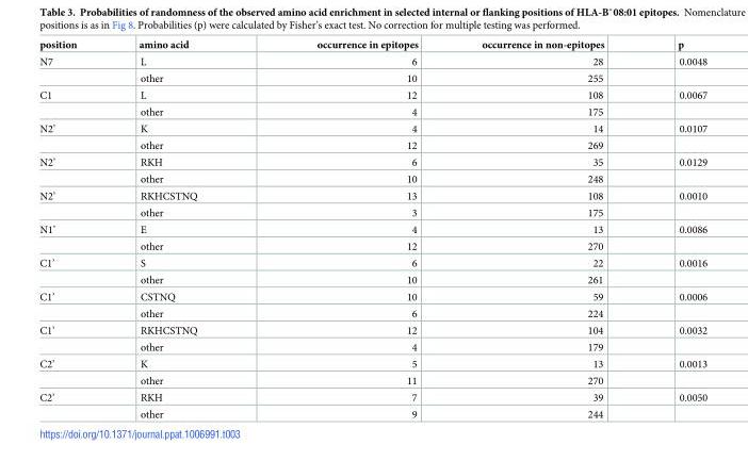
<table><thead><tr><td>position</td><td>amino acid</td><td>occurrence in epitopes</td><td>occurrence in non-epitopes</td><td>p</td></tr></thead><tbody><tr><td rowspan="2">N7</td><td>L</td><td>6</td><td>28</td><td>0.0048</td></tr><tr><td>other</td><td>10</td><td>255</td><td></td></tr><tr><td rowspan="2">C1</td><td>L</td><td>12</td><td>108</td><td>0.0067</td></tr><tr><td>other</td><td>4</td><td>175</td><td></td></tr><tr><td rowspan="2">N2’</td><td>K</td><td>4</td><td>14</td><td>0.0107</td></tr><tr><td>other</td><td>12</td><td>269</td><td></td></tr><tr><td rowspan="2">N2’</td><td>RKH</td><td>6</td><td>35</td><td>0.0129</td></tr><tr><td>other</td><td>10</td><td>248</td><td></td></tr><tr><td rowspan="2">N2’</td><td>RKHCSTNQ</td><td>13</td><td>108</td><td>0.0010</td></tr><tr><td>other</td><td>3</td><td>175</td><td></td></tr><tr><td rowspan="2">N1’</td><td>E</td><td>4</td><td>13</td><td>0.0086</td></tr><tr><td>other</td><td>12</td><td>270</td><td></td></tr><tr><td rowspan="2">C1’</td><td>S</td><td>6</td><td>22</td><td>0.0016</td></tr><tr><td>other</td><td>10</td><td>261</td><td></td></tr><tr><td rowspan="2">C1’</td><td>CSTNQ</td><td>10</td><td>59</td><td>0.0006</td></tr><tr><td>other</td><td>6</td><td>224</td><td></td></tr><tr><td rowspan="2">C1’</td><td>RKHCSTNQ</td><td>12</td><td>104</td><td>0.0032</td></tr><tr><td>other</td><td>4</td><td>179</td><td></td></tr><tr><td rowspan="2">C2’</td><td>K</td><td>5</td><td>13</td><td>0.0013</td></tr><tr><td>other</td><td>11</td><td>270</td><td></td></tr><tr><td rowspan="2">C2’</td><td>RKH</td><td>7</td><td>39</td><td>0.0050</td></tr><tr><td>other</td><td>9</td><td>244</td><td></td></tr></tbody></table>